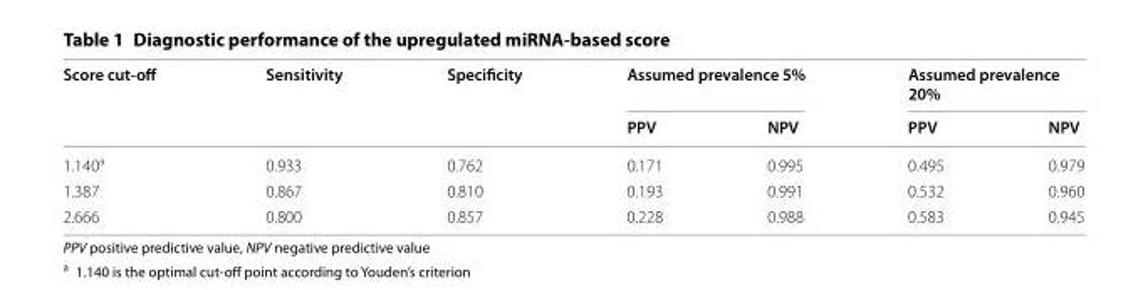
<table><thead><tr><td rowspan="2">Score cut-off</td><td rowspan="2">Sensitivity</td><td rowspan="2">Specificity</td><td colspan="2">Assumed prevalence 5%</td><td colspan="2">Assumed prevalence 20%</td></tr><tr><td>PPV</td><td>NPV</td><td>PPV</td><td>NPV</td></tr></thead><tbody><tr><td>1.140<sup>a</sup></td><td>0.933</td><td>0.762</td><td>0.171</td><td>0.995</td><td>0.495</td><td>0.979</td></tr><tr><td>1.387</td><td>0.867</td><td>0.810</td><td>0.193</td><td>0.991</td><td>0.532</td><td>0.960</td></tr><tr><td>2.666</td><td>0.800</td><td>0.857</td><td>0.228</td><td>0.988</td><td>0.583</td><td>0.945</td></tr></tbody></table>